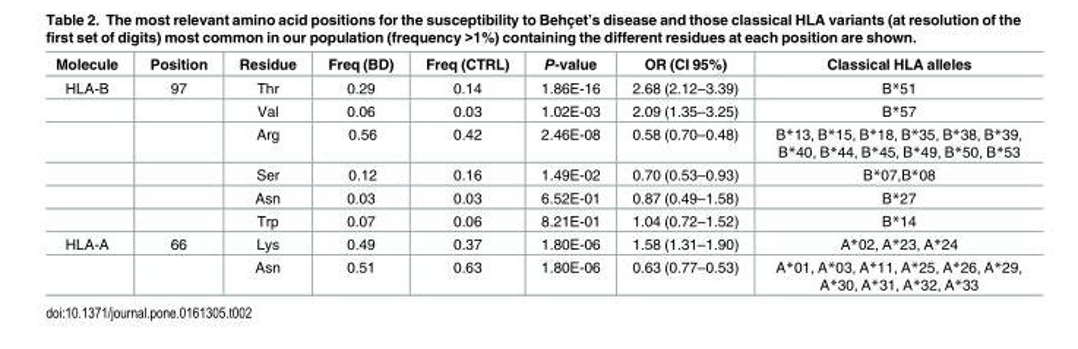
<table><thead><tr><td>Molecule</td><td>Position</td><td>Residue</td><td>Freq (BD)</td><td>Freq (CTRL)</td><td>P-value</td><td>OR (CI 95%)</td><td>Classical HLA alleles</td></tr></thead><tbody><tr><td rowspan="6">HLA-B</td><td>97</td><td>Thr</td><td>0.29</td><td>0.14</td><td>1.86E-16</td><td>2.68 (2.12–3.39)</td><td>B*51</td></tr><tr><td></td><td>Val</td><td>0.06</td><td>0.03</td><td>1.02E-03</td><td>2.09 (1.35–3.25)</td><td>B*57</td></tr><tr><td></td><td>Arg</td><td>0.56</td><td>0.42</td><td>2.46E-08</td><td>0.58 (0.70–0.48)</td><td>B*13, B*15, B*18, B*35, B*38, B*39, B*40, B*44, B*45, B*49, B*50, B*53</td></tr><tr><td></td><td>Ser</td><td>0.12</td><td>0.16</td><td>1.49E-02</td><td>0.70 (0.53–0.93)</td><td>B*07,B*08</td></tr><tr><td></td><td>Asn</td><td>0.03</td><td>0.03</td><td>6.52E-01</td><td>0.87 (0.49–1.58)</td><td>B*27</td></tr><tr><td></td><td>Trp</td><td>0.07</td><td>0.06</td><td>8.21E-01</td><td>1.04 (0.72–1.52)</td><td>B*14</td></tr><tr><td rowspan="2">HLA-A</td><td>66</td><td>Lys</td><td>0.49</td><td>0.37</td><td>1.80E-06</td><td>1.58 (1.31–1.90)</td><td>A*02, A*23, A*24</td></tr><tr><td></td><td>Asn</td><td>0.51</td><td>0.63</td><td>1.80E-06</td><td>0.63 (0.77–0.53)</td><td>A*01, A*03, A*11, A*25, A*26, A*29, A*30, A*31, A*32, A*33</td></tr></tbody></table>